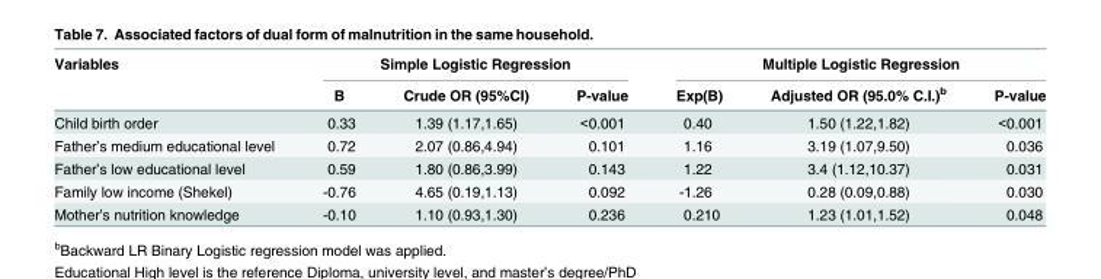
<table><thead><tr><td rowspan="2">Variables</td><td colspan="3">Simple Logistic Regression</td><td colspan="3">Multiple Logistic Regression</td></tr><tr><td>B</td><td>Crude OR (95%CI)</td><td>P-value</td><td>Exp(B)</td><td>Adjusted OR (95.0% C.I.)<sup>b</sup></td><td>P-value</td></tr></thead><tbody><tr><td>Child birth order</td><td>0.33</td><td>1.39 (1.17,1.65)</td><td>&lt;0.001</td><td>0.40</td><td>1.50 (1.22,1.82)</td><td>&lt;0.001</td></tr><tr><td>Father’s medium educational level</td><td>0.72</td><td>2.07 (0.86,4.94)</td><td>0.101</td><td>1.16</td><td>3.19 (1.07,9.50)</td><td>0.036</td></tr><tr><td>Father’s low educational level</td><td>0.59</td><td>1.80 (0.86,3.99)</td><td>0.143</td><td>1.22</td><td>3.4 (1.12,10.37)</td><td>0.031</td></tr><tr><td>Family low income (Shekel)</td><td>-0.76</td><td>4.65 (0.19,1.13)</td><td>0.092</td><td>-1.26</td><td>0.28 (0.09,0.88)</td><td>0.030</td></tr><tr><td>Mother’s nutrition knowledge</td><td>-0.10</td><td>1.10 (0.93,1.30)</td><td>0.236</td><td>0.210</td><td>1.23 (1.01,1.52)</td><td>0.048</td></tr></tbody></table>